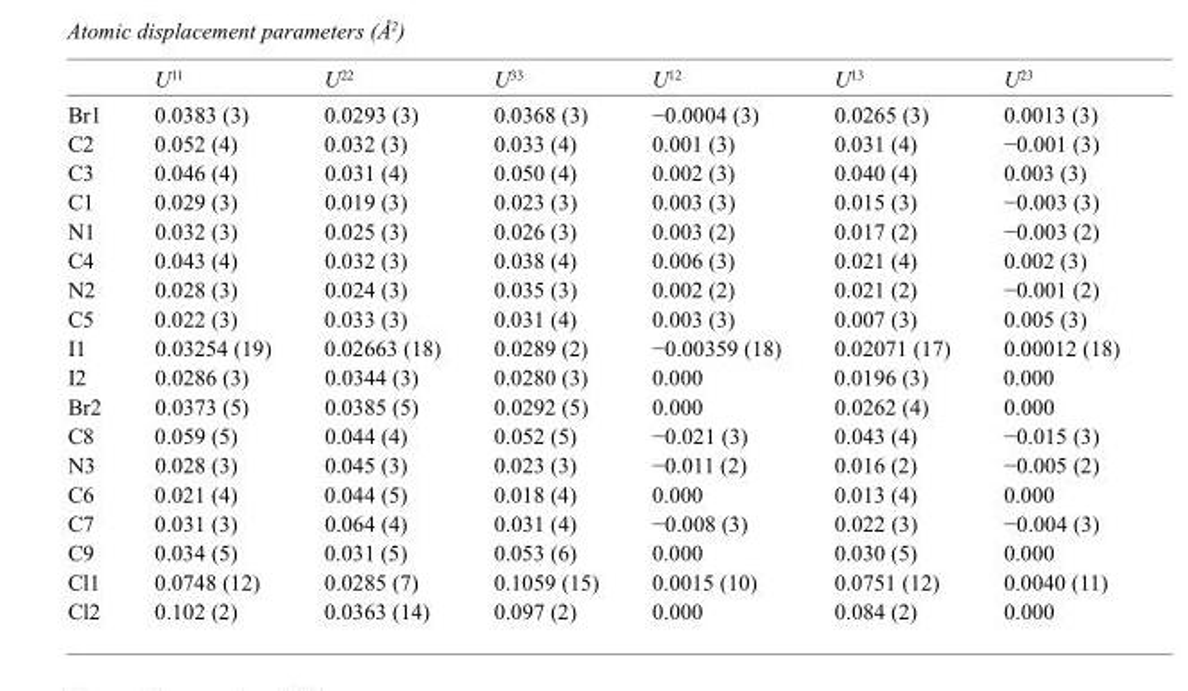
<table><thead><tr><td></td><td>U<sup>11</sup></td><td>U<sup>22</sup></td><td>U<sup>33</sup></td><td>U<sup>12</sup></td><td>U<sup>13</sup></td><td>U<sup>23</sup></td></tr></thead><tbody><tr><td>Br1</td><td>0.0383 (3)</td><td>0.0293 (3)</td><td>0.0368 (3)</td><td>−0.0004 (3)</td><td>0.0265 (3)</td><td>0.0013 (3)</td></tr><tr><td>C2</td><td>0.052 (4)</td><td>0.032 (3)</td><td>0.033 (4)</td><td>0.001 (3)</td><td>0.031 (4)</td><td>−0.001 (3)</td></tr><tr><td>C3</td><td>0.046 (4)</td><td>0.031 (4)</td><td>0.050 (4)</td><td>0.002 (3)</td><td>0.040 (4)</td><td>0.003 (3)</td></tr><tr><td>C1</td><td>0.029 (3)</td><td>0.019 (3)</td><td>0.023 (3)</td><td>0.003 (3)</td><td>0.015 (3)</td><td>−0.003 (3)</td></tr><tr><td>N1</td><td>0.032 (3)</td><td>0.025 (3)</td><td>0.026 (3)</td><td>0.003 (2)</td><td>0.017 (2)</td><td>−0.003 (2)</td></tr><tr><td>C4</td><td>0.043 (4)</td><td>0.032 (3)</td><td>0.038 (4)</td><td>0.006 (3)</td><td>0.021 (4)</td><td>0.002 (3)</td></tr><tr><td>N2</td><td>0.028 (3)</td><td>0.024 (3)</td><td>0.035 (3)</td><td>0.002 (2)</td><td>0.021 (2)</td><td>−0.001 (2)</td></tr><tr><td>C5</td><td>0.022 (3)</td><td>0.033 (3)</td><td>0.031 (4)</td><td>0.003 (3)</td><td>0.007 (3)</td><td>0.005 (3)</td></tr><tr><td>I1</td><td>0.03254 (19)</td><td>0.02663 (18)</td><td>0.0289 (2)</td><td>−0.00359 (18)</td><td>0.02071 (17)</td><td>0.00012 (18)</td></tr><tr><td>I2</td><td>0.0286 (3)</td><td>0.0344 (3)</td><td>0.0280 (3)</td><td>0.000</td><td>0.0196 (3)</td><td>0.000</td></tr><tr><td>Br2</td><td>0.0373 (5)</td><td>0.0385 (5)</td><td>0.0292 (5)</td><td>0.000</td><td>0.0262 (4)</td><td>0.000</td></tr><tr><td>C8</td><td>0.059 (5)</td><td>0.044 (4)</td><td>0.052 (5)</td><td>−0.021 (3)</td><td>0.043 (4)</td><td>−0.015 (3)</td></tr><tr><td>N3</td><td>0.028 (3)</td><td>0.045 (3)</td><td>0.023 (3)</td><td>−0.011 (2)</td><td>0.016 (2)</td><td>−0.005 (2)</td></tr><tr><td>C6</td><td>0.021 (4)</td><td>0.044 (5)</td><td>0.018 (4)</td><td>0.000</td><td>0.013 (4)</td><td>0.000</td></tr><tr><td>C7</td><td>0.031 (3)</td><td>0.064 (4)</td><td>0.031 (4)</td><td>−0.008 (3)</td><td>0.022 (3)</td><td>−0.004 (3)</td></tr><tr><td>C9</td><td>0.034 (5)</td><td>0.031 (5)</td><td>0.053 (6)</td><td>0.000</td><td>0.030 (5)</td><td>0.000</td></tr><tr><td>Cl1</td><td>0.0748 (12)</td><td>0.0285 (7)</td><td>0.1059 (15)</td><td>0.0015 (10)</td><td>0.0751 (12)</td><td>0.0040 (11)</td></tr><tr><td>Cl2</td><td>0.102 (2)</td><td>0.0363 (14)</td><td>0.097 (2)</td><td>0.000</td><td>0.084 (2)</td><td>0.000</td></tr></tbody></table>